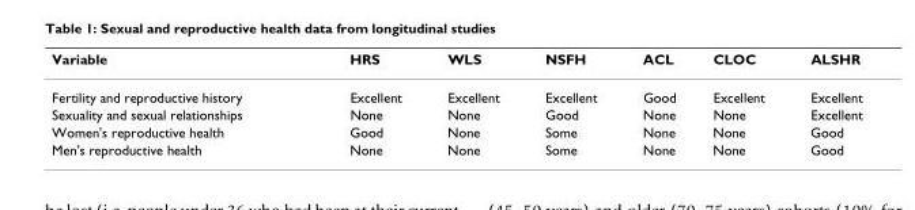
<table><thead><tr><td>Variable</td><td>HRS</td><td>WLS</td><td>NSFH</td><td>ACL</td><td>CLOC</td><td>ALSHR</td></tr></thead><tbody><tr><td>Fertility and reproductive history</td><td>Excellent</td><td>Excellent</td><td>Excellent</td><td>Good</td><td>Excellent</td><td>Excellent</td></tr><tr><td>Sexuality and sexual relationships</td><td>None</td><td>None</td><td>Good</td><td>None</td><td>None</td><td>Excellent</td></tr><tr><td>Women&#x27;s reproductive health</td><td>Good</td><td>None</td><td>Some</td><td>None</td><td>None</td><td>Good</td></tr><tr><td>Men&#x27;s reproductive health</td><td>None</td><td>None</td><td>Some</td><td>None</td><td>None</td><td>Good</td></tr></tbody></table>